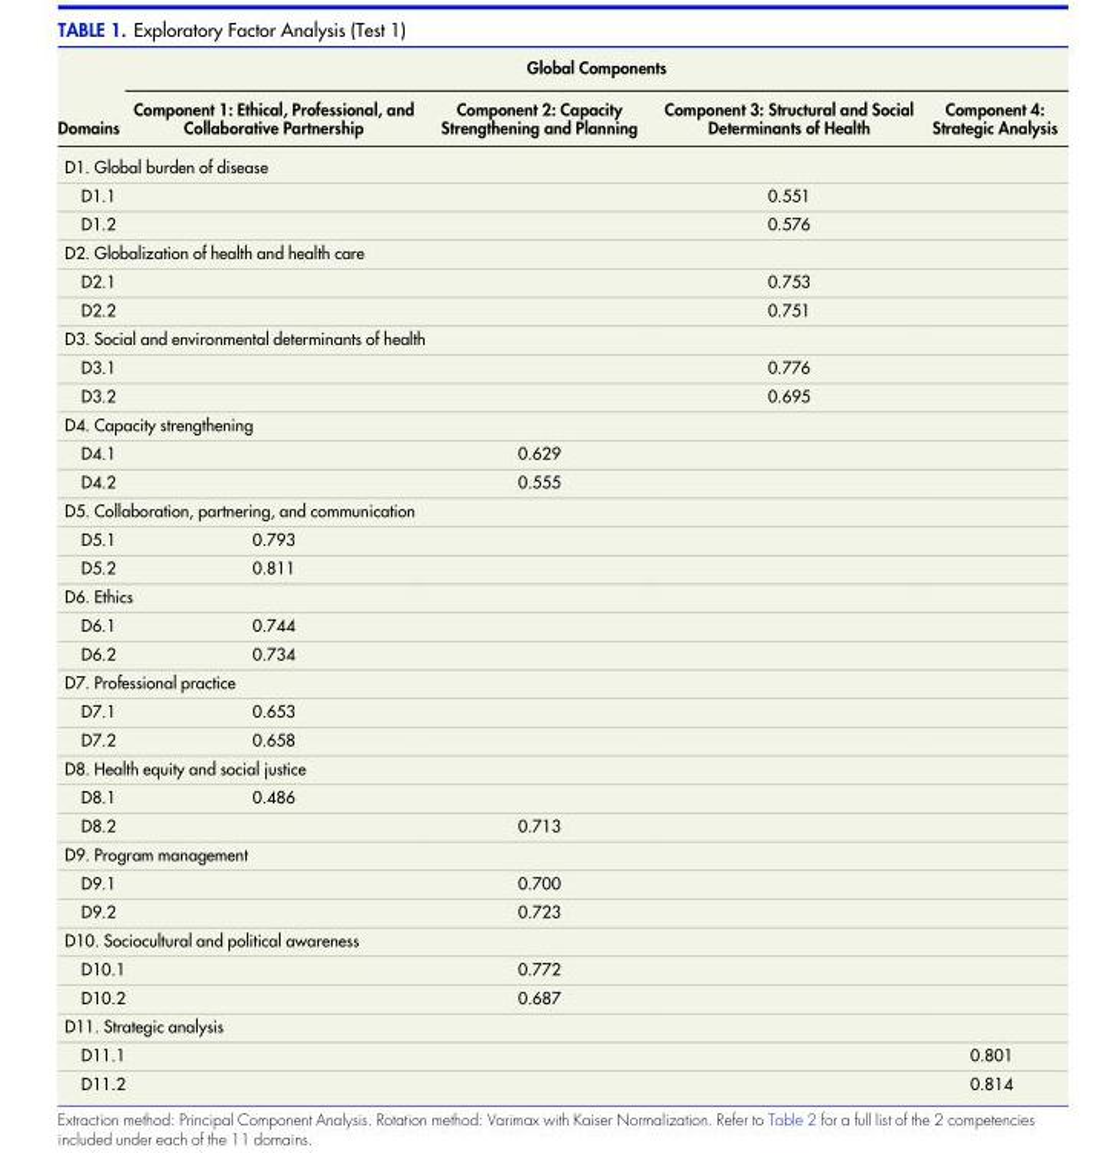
<table><thead><tr><td rowspan="2">Domains</td><td colspan="4">Global Components</td></tr><tr><td>Component 1: Ethical, Professional, and Collaborative Partnership</td><td>Component 2: Capacity Strengthening and Planning</td><td>Component 3: Structural and Social Determinants of Health</td><td>Component 4: Strategic Analysis</td></tr></thead><tbody><tr><td colspan="5">D1. Global burden of disease</td></tr><tr><td>D1.1</td><td></td><td></td><td>0.551</td><td></td></tr><tr><td>D1.2</td><td></td><td></td><td>0.576</td><td></td></tr><tr><td colspan="5">D2. Globalization of health and health care</td></tr><tr><td>D2.1</td><td></td><td></td><td>0.753</td><td></td></tr><tr><td>D2.2</td><td></td><td></td><td>0.751</td><td></td></tr><tr><td colspan="5">D3. Social and environmental determinants of health</td></tr><tr><td>D3.1</td><td></td><td></td><td>0.776</td><td></td></tr><tr><td>D3.2</td><td></td><td></td><td>0.695</td><td></td></tr><tr><td colspan="5">D4. Capacity strengthening</td></tr><tr><td>D4.1</td><td></td><td>0.629</td><td></td><td></td></tr><tr><td>D4.2</td><td></td><td>0.555</td><td></td><td></td></tr><tr><td colspan="5">D5. Collaboration, partnering, and communication</td></tr><tr><td>D5.1</td><td>0.793</td><td></td><td></td><td></td></tr><tr><td>D5.2</td><td>0.811</td><td></td><td></td><td></td></tr><tr><td colspan="5">D6. Ethics</td></tr><tr><td>D6.1</td><td>0.744</td><td></td><td></td><td></td></tr><tr><td>D6.2</td><td>0.734</td><td></td><td></td><td></td></tr><tr><td colspan="5">D7. Professional practice</td></tr><tr><td>D7.1</td><td>0.653</td><td></td><td></td><td></td></tr><tr><td>D7.2</td><td>0.658</td><td></td><td></td><td></td></tr><tr><td colspan="5">D8. Health equity and social justice</td></tr><tr><td>D8.1</td><td>0.486</td><td></td><td></td><td></td></tr><tr><td>D8.2</td><td></td><td>0.713</td><td></td><td></td></tr><tr><td colspan="5">D9. Program management</td></tr><tr><td>D9.1</td><td></td><td>0.700</td><td></td><td></td></tr><tr><td>D9.2</td><td></td><td>0.723</td><td></td><td></td></tr><tr><td colspan="5">D10. Sociocultural and political awareness</td></tr><tr><td>D10.1</td><td></td><td>0.772</td><td></td><td></td></tr><tr><td>D10.2</td><td></td><td>0.687</td><td></td><td></td></tr><tr><td colspan="5">D11. Strategic analysis</td></tr><tr><td>D11.1</td><td></td><td></td><td></td><td>0.801</td></tr><tr><td>D11.2</td><td></td><td></td><td></td><td>0.814</td></tr></tbody></table>